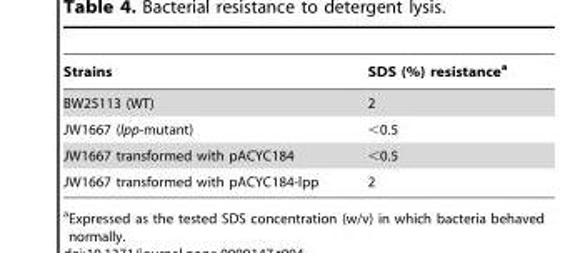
<table><thead><tr><td>Strains</td><td>SDS (%) resistance<sup>a</sup></td></tr></thead><tbody><tr><td>BW25113 (WT)</td><td>2</td></tr><tr><td>JW1667 (lpp-mutant)</td><td>&lt;0.5</td></tr><tr><td>JW1667 transformed with pACYC184</td><td>&lt;0.5</td></tr><tr><td>JW1667 transformed with pACYC184-lpp</td><td>2</td></tr></tbody></table>